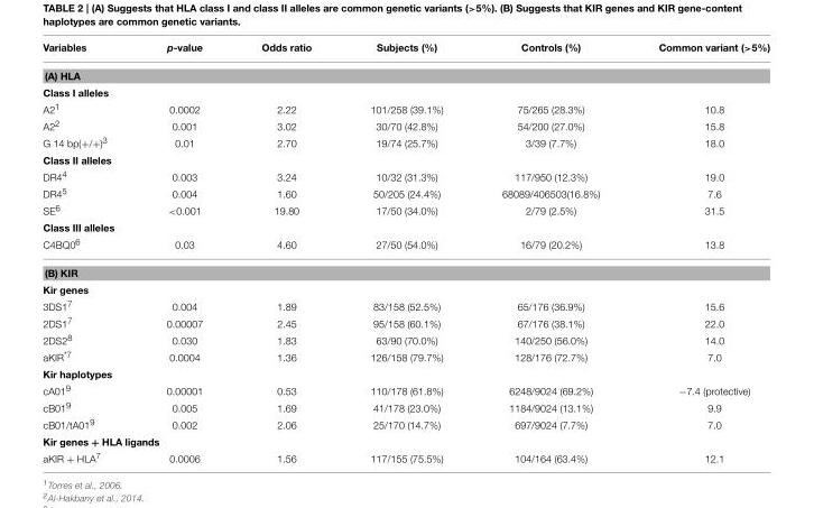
<table><thead><tr><td>Variables</td><td>p-value</td><td>Odds ratio</td><td>Subjects (%)</td><td>Controls (%)</td><td>Common variant (&gt;5%)</td></tr></thead><tbody><tr><td colspan="6">(A) HLA</td></tr><tr><td colspan="6">Class I alleles</td></tr><tr><td>A2<sup>1</sup></td><td>0.0002</td><td>2.22</td><td>101/258 (39.1%)</td><td>75/265 (28.3%)</td><td>10.8</td></tr><tr><td>A2<sup>2</sup></td><td>0.001</td><td>3.02</td><td>30/70 (42.8%)</td><td>54/200 (27.0%)</td><td>15.8</td></tr><tr><td>G 14 bp(+/+)<sup>3</sup></td><td>0.01</td><td>2.70</td><td>19/74 (25.7%)</td><td>3/39 (7.7%)</td><td>18.0</td></tr><tr><td colspan="6">Class II alleles</td></tr><tr><td>DR4<sup>4</sup></td><td>0.003</td><td>3.24</td><td>10/32 (31.3%)</td><td>117/950 (12.3%)</td><td>19.0</td></tr><tr><td>DR4<sup>5</sup></td><td>0.004</td><td>1.60</td><td>50/205 (24.4%)</td><td>68089/406503(16.8%)</td><td>7.6</td></tr><tr><td>SE<sup>6</sup></td><td>&lt;0.001</td><td>19.80</td><td>17/50 (34.0%)</td><td>2/79 (2.5%)</td><td>31.5</td></tr><tr><td colspan="6">Class III alleles</td></tr><tr><td>C4BQ0<sup>6</sup></td><td>0.03</td><td>4.60</td><td>27/50 (54.0%)</td><td>16/79 (20.2%)</td><td>13.8</td></tr><tr><td colspan="6">(B) KIR</td></tr><tr><td colspan="6">Kir genes</td></tr><tr><td>3DS1<sup>7</sup></td><td>0.004</td><td>1.89</td><td>83/158 (52.5%)</td><td>65/176 (36.9%)</td><td>15.6</td></tr><tr><td>2DS1<sup>7</sup></td><td>0.00007</td><td>2.45</td><td>95/158 (60.1%)</td><td>67/176 (38.1%)</td><td>22.0</td></tr><tr><td>2DS2<sup>8</sup></td><td>0.030</td><td>1.83</td><td>63/90 (70.0%)</td><td>140/250 (56.0%)</td><td>14.0</td></tr><tr><td>aKIR<sup>*7</sup></td><td>0.0004</td><td>1.36</td><td>126/158 (79.7%)</td><td>128/176 (72.7%)</td><td>7.0</td></tr><tr><td colspan="6">Kir haplotypes</td></tr><tr><td>cA01<sup>9</sup></td><td>0.00001</td><td>0.53</td><td>110/178 (61.8%)</td><td>6248/9024 (69.2%)</td><td>−7.4 (protective)</td></tr><tr><td>cB01<sup>9</sup></td><td>0.005</td><td>1.69</td><td>41/178 (23.0%)</td><td>1184/9024 (13.1%)</td><td>9.9</td></tr><tr><td>cB01/tA01<sup>9</sup></td><td>0.002</td><td>2.06</td><td>25/170 (14.7%)</td><td>697/9024 (7.7%)</td><td>7.0</td></tr><tr><td colspan="6">Kir genes + HLA ligands</td></tr><tr><td>aKIR + HLA<sup>7</sup></td><td>0.0006</td><td>1.56</td><td>117/155 (75.5%)</td><td>104/164 (63.4%)</td><td>12.1</td></tr></tbody></table>